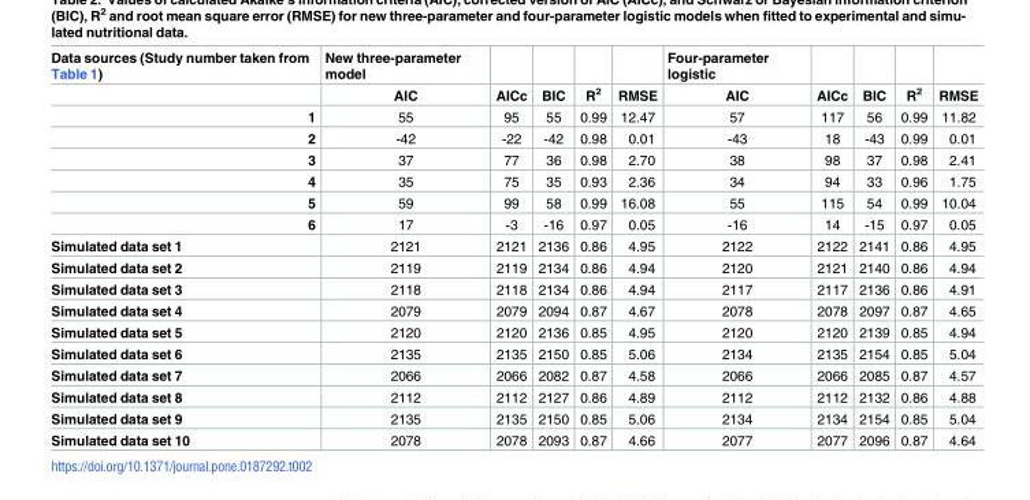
<table><thead><tr><td rowspan="2">Data sources (Study number taken from Table 1)</td><td rowspan="2">New three-parameter model AIC</td><td rowspan="2">AICc</td><td rowspan="2">BIC</td><td rowspan="2">R<sup>2</sup></td><td rowspan="2">RMSE</td><td rowspan="2">Four-parameter logistic AIC</td><td rowspan="2">AICc</td><td rowspan="2">BIC</td><td rowspan="2">R<sup>2</sup></td><td rowspan="2">RMSE</td></tr><tr></tr></thead><tbody><tr><td>1</td><td>55</td><td>95</td><td>55</td><td>0.99</td><td>12.47</td><td>57</td><td>117</td><td>56</td><td>0.99</td><td>11.82</td></tr><tr><td>2</td><td>-42</td><td>-22</td><td>-42</td><td>0.98</td><td>0.01</td><td>-43</td><td>18</td><td>-43</td><td>0.99</td><td>0.01</td></tr><tr><td>3</td><td>37</td><td>77</td><td>36</td><td>0.98</td><td>2.70</td><td>38</td><td>98</td><td>37</td><td>0.98</td><td>2.41</td></tr><tr><td>4</td><td>35</td><td>75</td><td>35</td><td>0.93</td><td>2.36</td><td>34</td><td>94</td><td>33</td><td>0.96</td><td>1.75</td></tr><tr><td>5</td><td>59</td><td>99</td><td>58</td><td>0.99</td><td>16.08</td><td>55</td><td>115</td><td>54</td><td>0.99</td><td>10.04</td></tr><tr><td>6</td><td>17</td><td>-3</td><td>-16</td><td>0.97</td><td>0.05</td><td>-16</td><td>14</td><td>-15</td><td>0.97</td><td>0.05</td></tr><tr><td>Simulated data set 1</td><td>2121</td><td>2121</td><td>2136</td><td>0.86</td><td>4.95</td><td>2122</td><td>2122</td><td>2141</td><td>0.86</td><td>4.95</td></tr><tr><td>Simulated data set 2</td><td>2119</td><td>2119</td><td>2134</td><td>0.86</td><td>4.94</td><td>2120</td><td>2121</td><td>2140</td><td>0.86</td><td>4.94</td></tr><tr><td>Simulated data set 3</td><td>2118</td><td>2118</td><td>2134</td><td>0.86</td><td>4.94</td><td>2117</td><td>2117</td><td>2136</td><td>0.86</td><td>4.91</td></tr><tr><td>Simulated data set 4</td><td>2079</td><td>2079</td><td>2094</td><td>0.87</td><td>4.67</td><td>2078</td><td>2078</td><td>2097</td><td>0.87</td><td>4.65</td></tr><tr><td>Simulated data set 5</td><td>2120</td><td>2120</td><td>2136</td><td>0.85</td><td>4.95</td><td>2120</td><td>2120</td><td>2139</td><td>0.85</td><td>4.94</td></tr><tr><td>Simulated data set 6</td><td>2135</td><td>2135</td><td>2150</td><td>0.85</td><td>5.06</td><td>2134</td><td>2135</td><td>2154</td><td>0.85</td><td>5.04</td></tr><tr><td>Simulated data set 7</td><td>2066</td><td>2066</td><td>2082</td><td>0.87</td><td>4.58</td><td>2066</td><td>2066</td><td>2085</td><td>0.87</td><td>4.57</td></tr><tr><td>Simulated data set 8</td><td>2112</td><td>2112</td><td>2127</td><td>0.86</td><td>4.89</td><td>2112</td><td>2112</td><td>2132</td><td>0.86</td><td>4.88</td></tr><tr><td>Simulated data set 9</td><td>2135</td><td>2135</td><td>2150</td><td>0.85</td><td>5.06</td><td>2134</td><td>2134</td><td>2154</td><td>0.85</td><td>5.04</td></tr><tr><td>Simulated data set 10</td><td>2078</td><td>2078</td><td>2093</td><td>0.87</td><td>4.66</td><td>2077</td><td>2077</td><td>2096</td><td>0.87</td><td>4.64</td></tr></tbody></table>